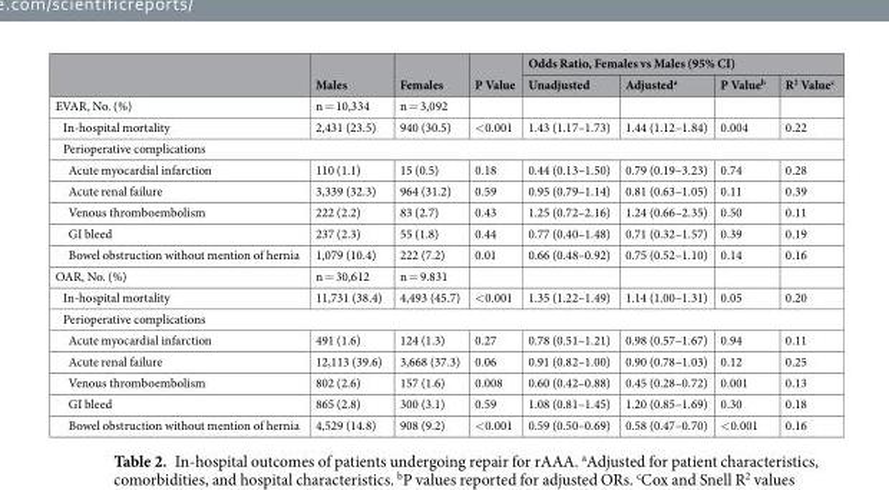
<table><thead><tr><td rowspan="2"></td><td rowspan="2">Males</td><td rowspan="2">Females</td><td rowspan="2">P Value</td><td colspan="4">Odds Ratio, Females vs Males (95% CI)</td></tr><tr><td>Unadjusted</td><td>Adjusted<sup>a</sup></td><td>P Value<sup>b</sup></td><td>R<sup>2</sup> Value<sup>c</sup></td></tr></thead><tbody><tr><td>EVAR, No. (%)</td><td>n = 10,334</td><td>n = 3,092</td><td></td><td></td><td></td><td></td><td></td></tr><tr><td>In-hospital mortality</td><td>2,431 (23.5)</td><td>940 (30.5)</td><td>&lt;0.001</td><td>1.43 (1.17–1.73)</td><td>1.44 (1.12–1.84)</td><td>0.004</td><td>0.22</td></tr><tr><td colspan="8">Perioperative complications</td></tr><tr><td>Acute myocardial infarction</td><td>110 (1.1)</td><td>15 (0.5)</td><td>0.18</td><td>0.44 (0.13–1.50)</td><td>0.79 (0.19–3.23)</td><td>0.74</td><td>0.28</td></tr><tr><td>Acute renal failure</td><td>3,339 (32.3)</td><td>964 (31.2)</td><td>0.59</td><td>0.95 (0.79–1.14)</td><td>0.81 (0.63–1.05)</td><td>0.11</td><td>0.39</td></tr><tr><td>Venous thromboembolism</td><td>222 (2.2)</td><td>83 (2.7)</td><td>0.43</td><td>1.25 (0.72–2.16)</td><td>1.24 (0.66–2.35)</td><td>0.50</td><td>0.11</td></tr><tr><td>GI bleed</td><td>237 (2.3)</td><td>55 (1.8)</td><td>0.44</td><td>0.77 (0.40–1.48)</td><td>0.71 (0.32–1.57)</td><td>0.39</td><td>0.19</td></tr><tr><td>Bowel obstruction without mention of hernia</td><td>1,079 (10.4)</td><td>222 (7.2)</td><td>0.01</td><td>0.66 (0.48–0.92)</td><td>0.75 (0.52–1.10)</td><td>0.14</td><td>0.16</td></tr><tr><td>OAR, No. (%)</td><td>n = 30,612</td><td>n = 9.831</td><td></td><td></td><td></td><td></td><td></td></tr><tr><td>In-hospital mortality</td><td>11,731 (38.4)</td><td>4,493 (45.7)</td><td>&lt;0.001</td><td>1.35 (1.22–1.49)</td><td>1.14 (1.00–1.31)</td><td>0.05</td><td>0.20</td></tr><tr><td colspan="8">Perioperative complications</td></tr><tr><td>Acute myocardial infarction</td><td>491 (1.6)</td><td>124 (1.3)</td><td>0.27</td><td>0.78 (0.51–1.21)</td><td>0.98 (0.57–1.67)</td><td>0.94</td><td>0.11</td></tr><tr><td>Acute renal failure</td><td>12,113 (39.6)</td><td>3,668 (37.3)</td><td>0.06</td><td>0.91 (0.82–1.00)</td><td>0.90 (0.78–1.03)</td><td>0.12</td><td>0.25</td></tr><tr><td>Venous thromboembolism</td><td>802 (2.6)</td><td>157 (1.6)</td><td>0.008</td><td>0.60 (0.42–0.88)</td><td>0.45 (0.28–0.72)</td><td>0.001</td><td>0.13</td></tr><tr><td>GI bleed</td><td>865 (2.8)</td><td>300 (3.1)</td><td>0.59</td><td>1.08 (0.81–1.45)</td><td>1.20 (0.85–1.69)</td><td>0.30</td><td>0.18</td></tr><tr><td>Bowel obstruction without mention of hernia</td><td>4,529 (14.8)</td><td>908 (9.2)</td><td>&lt;0.001</td><td>0.59 (0.50–0.69)</td><td>0.58 (0.47–0.70)</td><td>&lt;0.001</td><td>0.16</td></tr></tbody></table>